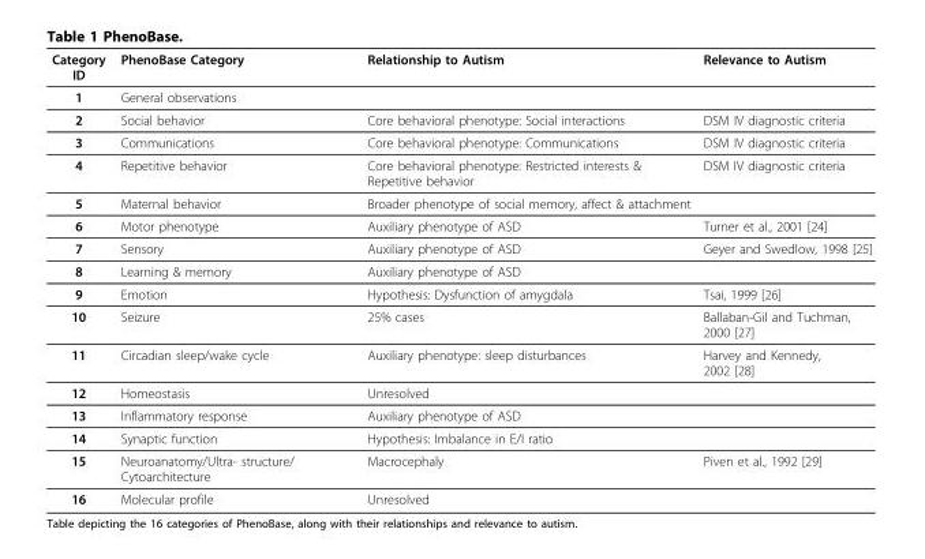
<table><thead><tr><td>Category ID</td><td>PhenoBase Category</td><td>Relationship to Autism</td><td>Relevance to Autism</td></tr></thead><tbody><tr><td>1</td><td>General observations</td><td></td><td></td></tr><tr><td>2</td><td>Social behavior</td><td>Core behavioral phenotype: Social interactions</td><td>DSM IV diagnostic criteria</td></tr><tr><td>3</td><td>Communications</td><td>Core behavioral phenotype: Communications</td><td>DSM IV diagnostic criteria</td></tr><tr><td>4</td><td>Repetitive behavior</td><td>Core behavioral phenotype: Restricted interests &amp; Repetitive behavior</td><td>DSM IV diagnostic criteria</td></tr><tr><td>5</td><td>Maternal behavior</td><td>Broader phenotype of social memory, affect &amp; attachment</td><td></td></tr><tr><td>6</td><td>Motor phenotype</td><td>Auxiliary phenotype of ASD</td><td>Turner et al., 2001 [24]</td></tr><tr><td>7</td><td>Sensory</td><td>Auxiliary phenotype of ASD</td><td>Geyer and Swedlow, 1998 [25]</td></tr><tr><td>8</td><td>Learning &amp; memory</td><td>Auxiliary phenotype of ASD</td><td></td></tr><tr><td>9</td><td>Emotion</td><td>Hypothesis: Dysfunction of amygdala</td><td>Tsai, 1999 [26]</td></tr><tr><td>10</td><td>Seizure</td><td>25% cases</td><td>Ballaban-Gil and Tuchman, 2000 [27]</td></tr><tr><td>11</td><td>Circadian sleep/wake cycle</td><td>Auxiliary phenotype: sleep disturbances</td><td>Harvey and Kennedy, 2002 [28]</td></tr><tr><td>12</td><td>Homeostasis</td><td>Unresolved</td><td></td></tr><tr><td>13</td><td>Inflammatory response</td><td>Auxiliary phenotype of ASD</td><td></td></tr><tr><td>14</td><td>Synaptic function</td><td>Hypothesis: Imbalance in E/I ratio</td><td></td></tr><tr><td>15</td><td>Neuroanatomy/Ultra- structure/ Cytoarchitecture</td><td>Macrocephaly</td><td>Piven et al., 1992 [29]</td></tr><tr><td>16</td><td>Molecular profile</td><td>Unresolved</td><td></td></tr></tbody></table>